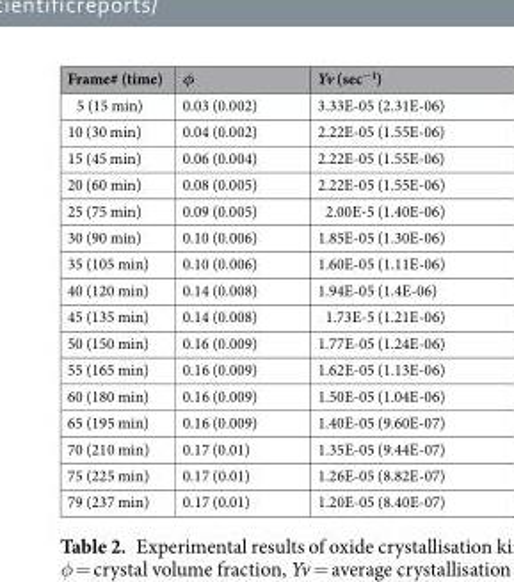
<table><thead><tr><td>Frame# (time)</td><td>φ</td><td>Yv (sec<sup>−1</sup>)</td></tr></thead><tbody><tr><td>5 (15 min)</td><td>0.03 (0.002)</td><td>3.33E-05 (2.31E-06)</td></tr><tr><td>10 (30 min)</td><td>0.04 (0.002)</td><td>2.22E-05 (1.55E-06)</td></tr><tr><td>15 (45 min)</td><td>0.06 (0.004)</td><td>2.22E-05 (1.55E-06)</td></tr><tr><td>20 (60 min)</td><td>0.08 (0.005)</td><td>2.22E-05 (1.55E-06)</td></tr><tr><td>25 (75 min)</td><td>0.09 (0.005)</td><td>2.00E-5 (1.40E-06)</td></tr><tr><td>30 (90 min)</td><td>0.10 (0.006)</td><td>1.85E-05 (1.30E-06)</td></tr><tr><td>35 (105 min)</td><td>0.10 (0.006)</td><td>1.60E-05 (1.11E-06)</td></tr><tr><td>40 (120 min)</td><td>0.14 (0.008)</td><td>1.94E-05 (1.4E-06)</td></tr><tr><td>45 (135 min)</td><td>0.14 (0.008)</td><td>1.73E-5 (1.21E-06)</td></tr><tr><td>50 (150 min)</td><td>0.16 (0.009)</td><td>1.77E-05 (1.24E-06)</td></tr><tr><td>55 (165 min)</td><td>0.16 (0.009)</td><td>1.62E-05 (1.13E-06)</td></tr><tr><td>60 (180 min)</td><td>0.16 (0.009)</td><td>1.50E-05 (1.04E-06)</td></tr><tr><td>65 (195 min)</td><td>0.16 (0.009)</td><td>1.40E-05 (9.60E-07)</td></tr><tr><td>70 (210 min)</td><td>0.17 (0.01)</td><td>1.35E-05 (9.44E-07)</td></tr><tr><td>75 (225 min)</td><td>0.17 (0.01)</td><td>1.26E-05 (8.82E-07)</td></tr><tr><td>79 (237 min)</td><td>0.17 (0.01)</td><td>1.20E-05 (8.40E-07)</td></tr></tbody></table>